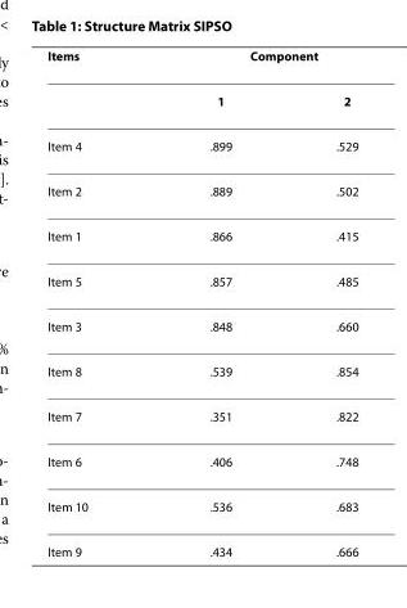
<table><thead><tr><td rowspan="2">Items</td><td colspan="2">Component</td></tr><tr><td>1</td><td>2</td></tr></thead><tbody><tr><td>Item 4</td><td>.899</td><td>.529</td></tr><tr><td>Item 2</td><td>.889</td><td>.502</td></tr><tr><td>Item 1</td><td>.866</td><td>.415</td></tr><tr><td>Item 5</td><td>.857</td><td>.485</td></tr><tr><td>Item 3</td><td>.848</td><td>.660</td></tr><tr><td>Item 8</td><td>.539</td><td>.854</td></tr><tr><td>Item 7</td><td>.351</td><td>.822</td></tr><tr><td>Item 6</td><td>.406</td><td>.748</td></tr><tr><td>Item 10</td><td>.536</td><td>.683</td></tr><tr><td>Item 9</td><td>.434</td><td>.666</td></tr></tbody></table>